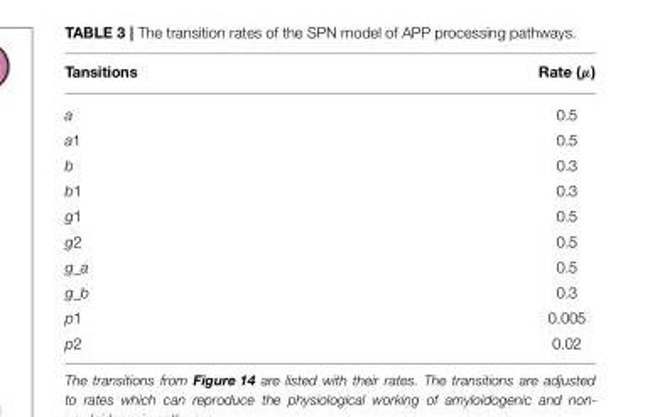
<table><thead><tr><td>Tansitions</td><td>Rate (µ)</td></tr></thead><tbody><tr><td>a</td><td>0.5</td></tr><tr><td>a1</td><td>0.5</td></tr><tr><td>b</td><td>0.3</td></tr><tr><td>b1</td><td>0.3</td></tr><tr><td>g1</td><td>0.5</td></tr><tr><td>g2</td><td>0.5</td></tr><tr><td>g_a</td><td>0.5</td></tr><tr><td>g_b</td><td>0.3</td></tr><tr><td>p1</td><td>0.005</td></tr><tr><td>p2</td><td>0.02</td></tr></tbody></table>